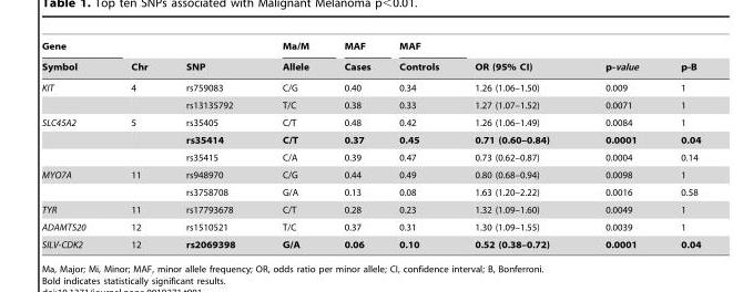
<table><thead><tr><td rowspan="2">Gene Symbol</td><td rowspan="2">Chr</td><td rowspan="2">SNP</td><td rowspan="2">Ma/M Allele</td><td rowspan="2">MAF Cases</td><td rowspan="2">MAF Controls</td><td rowspan="2">OR (95% CI)</td><td rowspan="2">p-value</td><td rowspan="2">p-B</td></tr><tr></tr></thead><tbody><tr><td rowspan="2">KIT</td><td>4</td><td>rs759083</td><td>C/G</td><td>0.40</td><td>0.34</td><td>1.26 (1.06–1.50)</td><td>0.009</td><td>1</td></tr><tr><td></td><td>rs13135792</td><td>T/C</td><td>0.38</td><td>0.33</td><td>1.27 (1.07–1.52)</td><td>0.0071</td><td>1</td></tr><tr><td rowspan="3">SLC45A2</td><td>5</td><td>rs35405</td><td>C/T</td><td>0.48</td><td>0.42</td><td>1.26 (1.06–1.49)</td><td>0.0084</td><td>1</td></tr><tr><td></td><td>rs35414</td><td>C/T</td><td>0.37</td><td>0.45</td><td>0.71 (0.60–0.84)</td><td>0.0001</td><td>0.04</td></tr><tr><td></td><td>rs35415</td><td>C/A</td><td>0.39</td><td>0.47</td><td>0.73 (0.62–0.87)</td><td>0.0004</td><td>0.14</td></tr><tr><td rowspan="2">MYO7A</td><td>11</td><td>rs948970</td><td>C/G</td><td>0.44</td><td>0.49</td><td>0.80 (0.68–0.94)</td><td>0.0098</td><td>1</td></tr><tr><td></td><td>rs3758708</td><td>G/A</td><td>0.13</td><td>0.08</td><td>1.63 (1.20–2.22)</td><td>0.0016</td><td>0.58</td></tr><tr><td>TYR</td><td>11</td><td>rs17793678</td><td>C/T</td><td>0.28</td><td>0.23</td><td>1.32 (1.09–1.60)</td><td>0.0049</td><td>1</td></tr><tr><td>ADAMTS20</td><td>12</td><td>rs1510521</td><td>T/C</td><td>0.37</td><td>0.31</td><td>1.30 (1.09–1.55)</td><td>0.0039</td><td>1</td></tr><tr><td>SILV-CDK2</td><td>12</td><td>rs2069398</td><td>G/A</td><td>0.06</td><td>0.10</td><td>0.52 (0.38–0.72)</td><td>0.0001</td><td>0.04</td></tr></tbody></table>